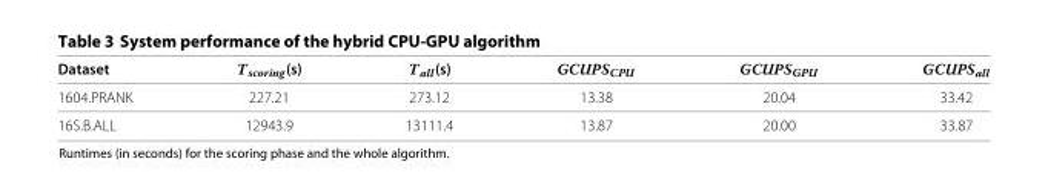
<table><thead><tr><td>Dataset</td><td>T<sub>scoring</sub>(s)</td><td>T<sub>all</sub>(s)</td><td>GCUPS<sub>CPU</sub></td><td>GCUPS<sub>GPU</sub></td><td>GCUPS<sub>all</sub></td></tr></thead><tbody><tr><td>1604.PRANK</td><td>227.21</td><td>273.12</td><td>13.38</td><td>20.04</td><td>33.42</td></tr><tr><td>16S.B.ALL</td><td>12943.9</td><td>13111.4</td><td>13.87</td><td>20.00</td><td>33.87</td></tr></tbody></table>